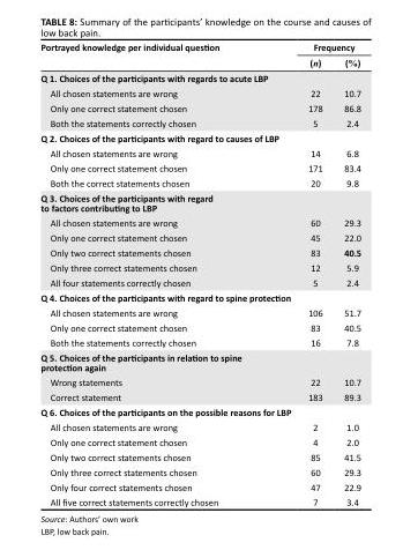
<table><thead><tr><td rowspan="2">Portrayed knowledge per individual question</td><td colspan="2">Frequency</td></tr><tr><td>(n)</td><td>(%)</td></tr></thead><tbody><tr><td colspan="3">Q 1. Choices of the participants with regards to acute LBP</td></tr><tr><td>All chosen statements are wrong</td><td>22</td><td>10.7</td></tr><tr><td>Only one correct statement chosen</td><td>178</td><td>86.8</td></tr><tr><td>Both the statements correctly chosen</td><td>5</td><td>2.4</td></tr><tr><td colspan="3">Q 2. Choices of the participants with regard to causes of LBP</td></tr><tr><td>All chosen statements are wrong</td><td>14</td><td>6.8</td></tr><tr><td>Only one correct statement chosen</td><td>171</td><td>83.4</td></tr><tr><td>Both the correct statements chosen</td><td>20</td><td>9.8</td></tr><tr><td colspan="3">Q 3. Choices of the participants with regard to factors contributing to LBP</td></tr><tr><td>All chosen statements are wrong</td><td>60</td><td>29.3</td></tr><tr><td>Only one correct statement chosen</td><td>45</td><td>22.0</td></tr><tr><td>Only two correct statements chosen</td><td>83</td><td>40.5</td></tr><tr><td>Only three correct statements chosen</td><td>12</td><td>5.9</td></tr><tr><td>All four statements correctly chosen</td><td>5</td><td>2.4</td></tr><tr><td colspan="3">Q 4. Choices of the participants with regard to spine protection</td></tr><tr><td>All chosen statements are wrong</td><td>106</td><td>51.7</td></tr><tr><td>Only one correct statement chosen</td><td>83</td><td>40.5</td></tr><tr><td>Both the statements correctly chosen</td><td>16</td><td>7.8</td></tr><tr><td colspan="3">Q 5. Choices of the participants in relation to spine protection again</td></tr><tr><td>Wrong statements</td><td>22</td><td>10.7</td></tr><tr><td>Correct statement</td><td>183</td><td>89.3</td></tr><tr><td colspan="3">Q 6. Choices of the participants on the possible reasons for LBP</td></tr><tr><td>All chosen statements are wrong</td><td>2</td><td>1.0</td></tr><tr><td>Only one correct statement chosen</td><td>4</td><td>2.0</td></tr><tr><td>Only two correct statements chosen</td><td>85</td><td>41.5</td></tr><tr><td>Only three correct statements chosen</td><td>60</td><td>29.3</td></tr><tr><td>Only four correct statements chosen</td><td>47</td><td>22.9</td></tr><tr><td>All five correct statements correctly chosen</td><td>7</td><td>3.4</td></tr></tbody></table>